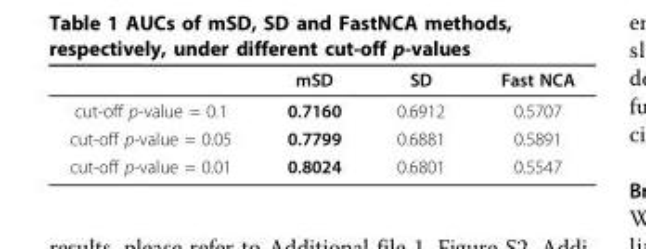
<table><thead><tr><td></td><td>mSD</td><td>SD</td><td>Fast NCA</td></tr></thead><tbody><tr><td>cut-off p-value = 0.1</td><td>0.7160</td><td>0.6912</td><td>0.5707</td></tr><tr><td>cut-off p-value = 0.05</td><td>0.7799</td><td>0.6881</td><td>0.5891</td></tr><tr><td>cut-off p-value = 0.01</td><td>0.8024</td><td>0.6801</td><td>0.5547</td></tr></tbody></table>